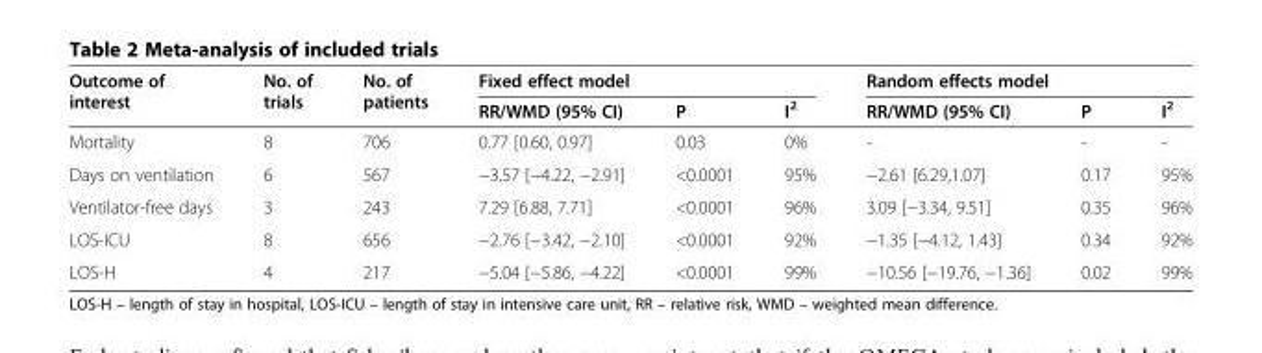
<table><thead><tr><td rowspan="2">Outcome of interest</td><td rowspan="2">No. of trials</td><td rowspan="2">No. of patients</td><td colspan="3">Fixed effect model</td><td colspan="3">Random effects model</td></tr><tr><td>RR/WMD (95% CI)</td><td>P</td><td>I<sup>2</sup></td><td>RR/WMD (95% CI)</td><td>P</td><td>I<sup>2</sup></td></tr></thead><tbody><tr><td>Mortality</td><td>8</td><td>706</td><td>0.77 [0.60, 0.97]</td><td>0.03</td><td>0%</td><td>-</td><td>-</td><td>-</td></tr><tr><td>Days on ventilation</td><td>6</td><td>567</td><td>−3.57 [−4.22, −2.91]</td><td>&lt;0.0001</td><td>95%</td><td>−2.61 [6.29,1.07]</td><td>0.17</td><td>95%</td></tr><tr><td>Ventilator-free days</td><td>3</td><td>243</td><td>7.29 [6.88, 7.71]</td><td>&lt;0.0001</td><td>96%</td><td>3.09 [−3.34, 9.51]</td><td>0.35</td><td>96%</td></tr><tr><td>LOS-ICU</td><td>8</td><td>656</td><td>−2.76 [−3.42, −2.10]</td><td>&lt;0.0001</td><td>92%</td><td>−1.35 [−4.12, 1.43]</td><td>0.34</td><td>92%</td></tr><tr><td>LOS-H</td><td>4</td><td>217</td><td>−5.04 [−5.86, −4.22]</td><td>&lt;0.0001</td><td>99%</td><td>−10.56 [−19.76, −1.36]</td><td>0.02</td><td>99%</td></tr></tbody></table>